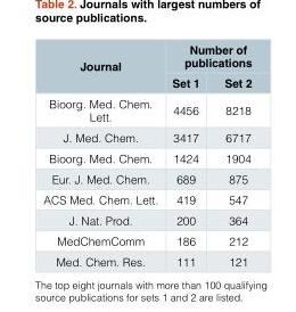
<table><thead><tr><td rowspan="2">Journal</td><td colspan="2">Number of publications</td></tr><tr><td>Set 1</td><td>Set 2</td></tr></thead><tbody><tr><td>Bioorg. Med. Chem. Lett.</td><td>4456</td><td>8218</td></tr><tr><td>J. Med. Chem.</td><td>3417</td><td>6717</td></tr><tr><td>Bioorg. Med. Chem.</td><td>1424</td><td>1904</td></tr><tr><td>Eur. J. Med. Chem.</td><td>689</td><td>875</td></tr><tr><td>ACS Med. Chem. Lett.</td><td>419</td><td>547</td></tr><tr><td>J. Nat. Prod.</td><td>200</td><td>364</td></tr><tr><td>MedChemComm</td><td>186</td><td>212</td></tr><tr><td>Med. Chem. Res.</td><td>111</td><td>121</td></tr></tbody></table>